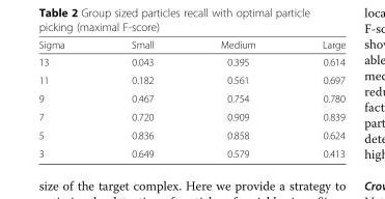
<table><thead><tr><td>Sigma</td><td>Small</td><td>Medium</td><td>Large</td></tr></thead><tbody><tr><td>13</td><td>0.043</td><td>0.395</td><td>0.614</td></tr><tr><td>11</td><td>0.182</td><td>0.561</td><td>0.697</td></tr><tr><td>9</td><td>0.467</td><td>0.754</td><td>0.780</td></tr><tr><td>7</td><td>0.720</td><td>0.909</td><td>0.839</td></tr><tr><td>5</td><td>0.836</td><td>0.858</td><td>0.624</td></tr><tr><td>3</td><td>0.649</td><td>0.579</td><td>0.413</td></tr></tbody></table>